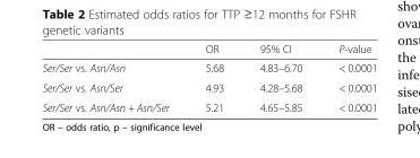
<table><thead><tr><td></td><td>OR</td><td>95% CI</td><td>P-value</td></tr></thead><tbody><tr><td>Ser/Ser vs. Asn/Asn</td><td>5.68</td><td>4.83–6.70</td><td>&lt; 0.0001</td></tr><tr><td>Ser/Ser vs. Asn/Ser</td><td>4.93</td><td>4.28–5.68</td><td>&lt; 0.0001</td></tr><tr><td>Ser/Ser vs. Asn/Asn + Asn/Ser</td><td>5.21</td><td>4.65–5.85</td><td>&lt; 0.0001</td></tr></tbody></table>